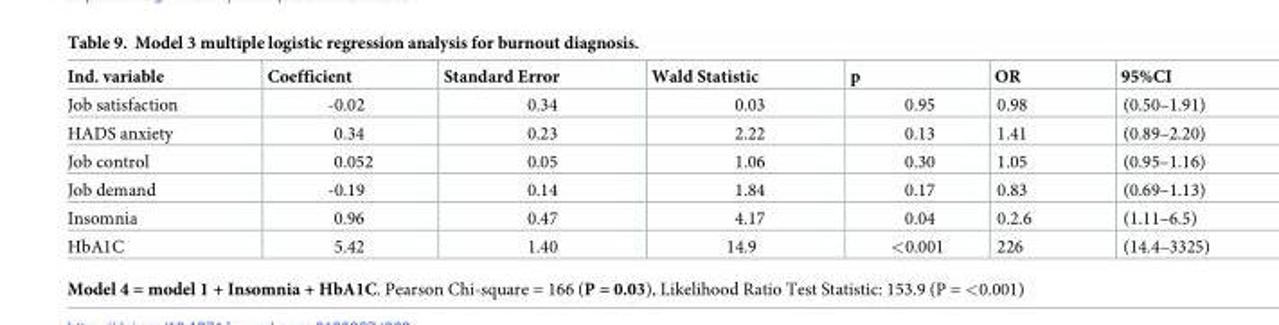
<table><thead><tr><td>Ind. variable</td><td>Coefficient</td><td>Standard Error</td><td>Wald Statistic</td><td>p</td><td>OR</td><td>95%CI</td></tr></thead><tbody><tr><td>Job satisfaction</td><td>-0.02</td><td>0.34</td><td>0.03</td><td>0.95</td><td>0.98</td><td>(0.50–1.91)</td></tr><tr><td>HADS anxiety</td><td>0.34</td><td>0.23</td><td>2.22</td><td>0.13</td><td>1.41</td><td>(0.89–2.20)</td></tr><tr><td>Job control</td><td>0.052</td><td>0.05</td><td>1.06</td><td>0.30</td><td>1.05</td><td>(0.95–1.16)</td></tr><tr><td>Job demand</td><td>-0.19</td><td>0.14</td><td>1.84</td><td>0.17</td><td>0.83</td><td>(0.69–1.13)</td></tr><tr><td>Insomnia</td><td>0.96</td><td>0.47</td><td>4.17</td><td>0.04</td><td>0.2.6</td><td>(1.11–6.5)</td></tr><tr><td>HbA1C</td><td>5.42</td><td>1.40</td><td>14.9</td><td>&lt;0.001</td><td>226</td><td>(14.4–3325)</td></tr></tbody></table>